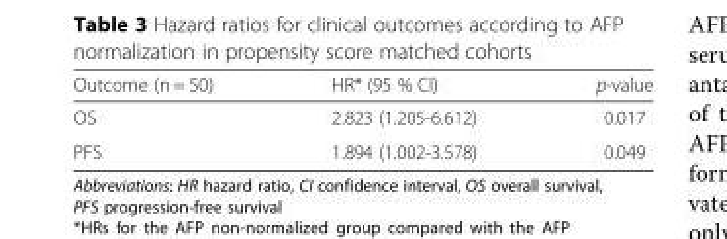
<table><thead><tr><td>Outcome (n = 50)</td><td>HR* (95 % CI)</td><td>p-value</td></tr></thead><tbody><tr><td>OS</td><td>2.823 (1.205-6.612)</td><td>0.017</td></tr><tr><td>PFS</td><td>1.894 (1.002-3.578)</td><td>0.049</td></tr></tbody></table>